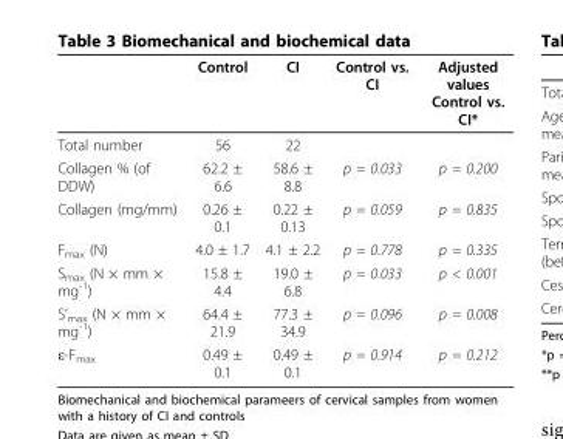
<table><thead><tr><td></td><td>Control</td><td>CI</td><td>Control vs. CI</td><td>Adjusted values Control vs. CI*</td></tr></thead><tbody><tr><td>Total number</td><td>56</td><td>22</td><td></td><td></td></tr><tr><td>Collagen % (of DDW)</td><td>62.2 ± 6.6</td><td>58.6 ± 8.8</td><td>p = 0.033</td><td>p = 0.200</td></tr><tr><td>Collagen (mg/mm)</td><td>0.26 ± 0.1</td><td>0.22 ± 0.13</td><td>p = 0.059</td><td>p = 0.835</td></tr><tr><td>F<sub>max</sub> (N)</td><td>4.0 ± 1.7</td><td>4.1 ± 2.2</td><td>p = 0.778</td><td>p = 0.335</td></tr><tr><td>S<sub>max</sub> (N × mm × mg<sup>-1</sup>)</td><td>15.8 ± 4.4</td><td>19.0 ± 6.8</td><td>p = 0.033</td><td>p &lt; 0.001</td></tr><tr><td>S’<sub>max</sub> (N × mm × mg<sup>-1</sup>)</td><td>64.4 ± 21.9</td><td>77.3 ± 34.9</td><td>p = 0.096</td><td>p = 0.008</td></tr><tr><td>ε-F<sub>max</sub></td><td>0.49 ± 0.1</td><td>0.49 ± 0.1</td><td>p = 0.914</td><td>p = 0.212</td></tr></tbody></table>